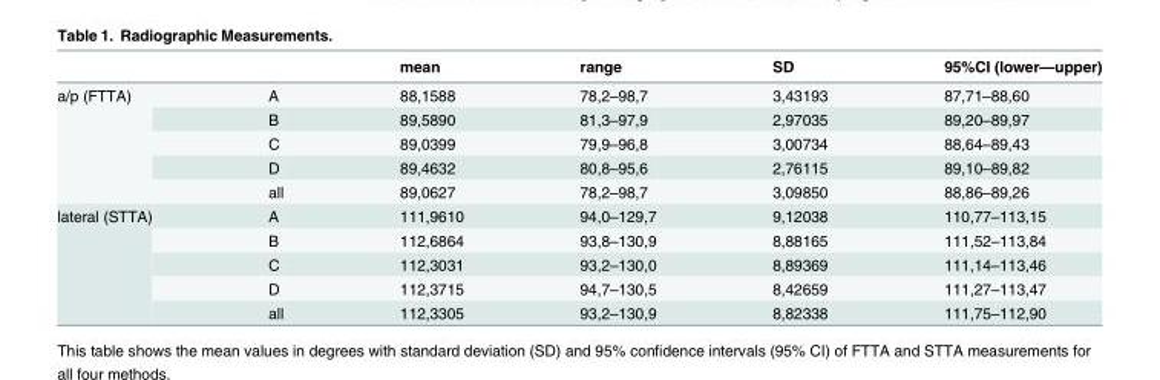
<table><thead><tr><td></td><td></td><td>mean</td><td>range</td><td>SD</td><td>95%CI (lower—upper)</td></tr></thead><tbody><tr><td rowspan="5">a/p (FTTA)</td><td>A</td><td>88,1588</td><td>78,2–98,7</td><td>3,43193</td><td>87,71–88,60</td></tr><tr><td>B</td><td>89,5890</td><td>81,3–97,9</td><td>2,97035</td><td>89,20–89,97</td></tr><tr><td>C</td><td>89,0399</td><td>79,9–96,8</td><td>3,00734</td><td>88,64–89,43</td></tr><tr><td>D</td><td>89,4632</td><td>80,8–95,6</td><td>2,76115</td><td>89,10–89,82</td></tr><tr><td>all</td><td>89,0627</td><td>78,2–98,7</td><td>3,09850</td><td>88,86–89,26</td></tr><tr><td rowspan="5">lateral (STTA)</td><td>A</td><td>111,9610</td><td>94,0–129,7</td><td>9,12038</td><td>110,77–113,15</td></tr><tr><td>B</td><td>112,6864</td><td>93,8–130,9</td><td>8,88165</td><td>111,52–113,84</td></tr><tr><td>C</td><td>112,3031</td><td>93,2–130,0</td><td>8,89369</td><td>111,14–113,46</td></tr><tr><td>D</td><td>112,3715</td><td>94,7–130,5</td><td>8,42659</td><td>111,27–113,47</td></tr><tr><td>all</td><td>112,3305</td><td>93,2–130,9</td><td>8,82338</td><td>111,75–112,90</td></tr></tbody></table>